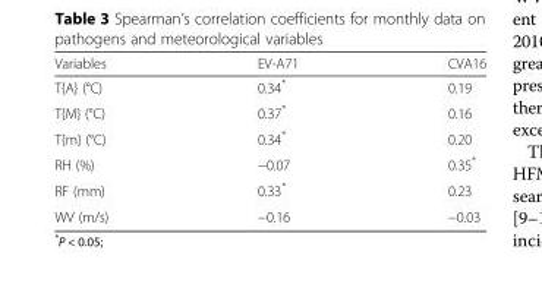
<table><thead><tr><td>Variables</td><td>EV-A71</td><td>CVA16</td></tr></thead><tbody><tr><td>T{A} (°C)</td><td>0.34*</td><td>0.19</td></tr><tr><td>T{M} (°C)</td><td>0.37*</td><td>0.16</td></tr><tr><td>T{m} (°C)</td><td>0.34*</td><td>0.20</td></tr><tr><td>RH (%)</td><td>−0.07</td><td>0.35*</td></tr><tr><td>RF (mm)</td><td>0.33*</td><td>0.23</td></tr><tr><td>WV (m/s)</td><td>−0.16</td><td>−0.03</td></tr></tbody></table>